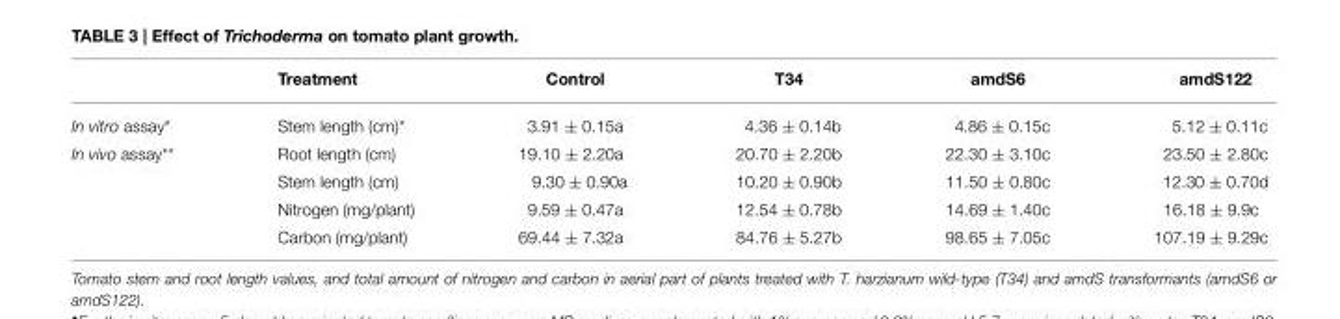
<table><thead><tr><td></td><td>Treatment</td><td>Control</td><td>T34</td><td>amdS6</td><td>amdS122</td></tr></thead><tbody><tr><td>In vitro assay*</td><td>Stem length (cm)*</td><td>3.91 ± 0.15a</td><td>4.36 ± 0.14b</td><td>4.86 ± 0.15c</td><td>5.12 ± 0.11c</td></tr><tr><td rowspan="4">In vivo assay**</td><td>Root length (cm)</td><td>19.10 ± 2.20a</td><td>20.70 ± 2.20b</td><td>22.30 ± 3.10c</td><td>23.50 ± 2.80c</td></tr><tr><td>Stem length (cm)</td><td>9.30 ± 0.90a</td><td>10.20 ± 0.90b</td><td>11.50 ± 0.80c</td><td>12.30 ± 0.70d</td></tr><tr><td>Nitrogen (mg/plant)</td><td>9.59 ± 0.47a</td><td>12.54 ± 0.78b</td><td>14.69 ± 1.40c</td><td>16.18 ± 9.9c</td></tr><tr><td>Carbon (mg/plant)</td><td>69.44 ± 7.32a</td><td>84.76 ± 5.27b</td><td>98.65 ± 7.05c</td><td>107.19 ± 9.29c</td></tr></tbody></table>